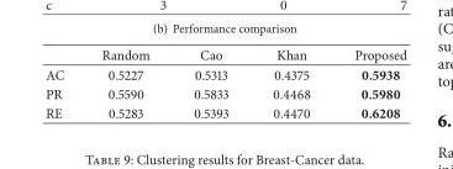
<table><thead><tr><td></td><td>Random</td><td>Cao</td><td>Khan</td><td>Proposed</td></tr></thead><tbody><tr><td>AC</td><td>0.5227</td><td>0.5313</td><td>0.4375</td><td>0.5938</td></tr><tr><td>PR</td><td>0.5590</td><td>0.5833</td><td>0.4468</td><td>0.5980</td></tr><tr><td>RE</td><td>0.5283</td><td>0.5393</td><td>0.4470</td><td>0.6208</td></tr></tbody></table>